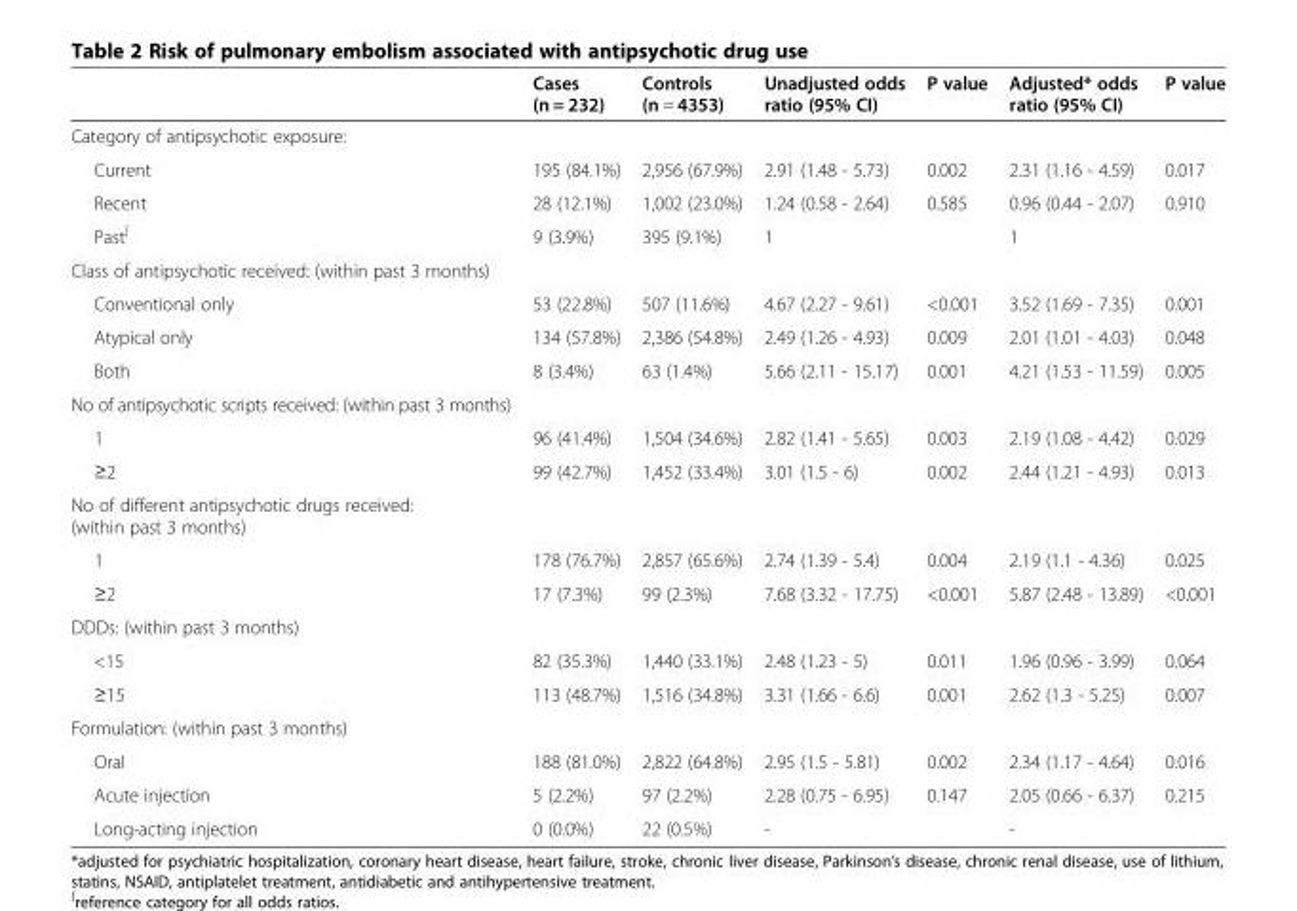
<table><thead><tr><td></td><td>Cases (n = 232)</td><td>Controls (n = 4353)</td><td>Unadjusted odds ratio (95% CI)</td><td>P value</td><td>Adjusted* odds ratio (95% CI)</td><td>P value</td></tr></thead><tbody><tr><td colspan="7">Category of antipsychotic exposure:</td></tr><tr><td>Current</td><td>195 (84.1%)</td><td>2,956 (67.9%)</td><td>2.91 (1.48 - 5.73)</td><td>0.002</td><td>2.31 (1.16 - 4.59)</td><td>0.017</td></tr><tr><td>Recent</td><td>28 (12.1%)</td><td>1,002 (23.0%)</td><td>1.24 (0.58 - 2.64)</td><td>0.585</td><td>0.96 (0.44 - 2.07)</td><td>0.910</td></tr><tr><td>Past<sup>∫</sup></td><td>9 (3.9%)</td><td>395 (9.1%)</td><td>1</td><td></td><td>1</td><td></td></tr><tr><td colspan="7">Class of antipsychotic received: (within past 3 months)</td></tr><tr><td>Conventional only</td><td>53 (22.8%)</td><td>507 (11.6%)</td><td>4.67 (2.27 - 9.61)</td><td>&lt;0.001</td><td>3.52 (1.69 - 7.35)</td><td>0.001</td></tr><tr><td>Atypical only</td><td>134 (57.8%)</td><td>2,386 (54.8%)</td><td>2.49 (1.26 - 4.93)</td><td>0.009</td><td>2.01 (1.01 - 4.03)</td><td>0.048</td></tr><tr><td>Both</td><td>8 (3.4%)</td><td>63 (1.4%)</td><td>5.66 (2.11 - 15.17)</td><td>0.001</td><td>4.21 (1.53 - 11.59)</td><td>0.005</td></tr><tr><td colspan="7">No of antipsychotic scripts received: (within past 3 months)</td></tr><tr><td>1</td><td>96 (41.4%)</td><td>1,504 (34.6%)</td><td>2.82 (1.41 - 5.65)</td><td>0.003</td><td>2.19 (1.08 - 4.42)</td><td>0.029</td></tr><tr><td>≥2</td><td>99 (42.7%)</td><td>1,452 (33.4%)</td><td>3.01 (1.5 - 6)</td><td>0.002</td><td>2.44 (1.21 - 4.93)</td><td>0.013</td></tr><tr><td colspan="7">No of different antipsychotic drugs received: (within past 3 months)</td></tr><tr><td>1</td><td>178 (76.7%)</td><td>2,857 (65.6%)</td><td>2.74 (1.39 - 5.4)</td><td>0.004</td><td>2.19 (1.1 - 4.36)</td><td>0.025</td></tr><tr><td>≥2</td><td>17 (7.3%)</td><td>99 (2.3%)</td><td>7.68 (3.32 - 17.75)</td><td>&lt;0.001</td><td>5.87 (2.48 - 13.89)</td><td>&lt;0.001</td></tr><tr><td colspan="7">DDDs: (within past 3 months)</td></tr><tr><td>&lt;15</td><td>82 (35.3%)</td><td>1,440 (33.1%)</td><td>2.48 (1.23 - 5)</td><td>0.011</td><td>1.96 (0.96 - 3.99)</td><td>0.064</td></tr><tr><td>≥15</td><td>113 (48.7%)</td><td>1,516 (34.8%)</td><td>3.31 (1.66 - 6.6)</td><td>0.001</td><td>2.62 (1.3 - 5.25)</td><td>0.007</td></tr><tr><td colspan="7">Formulation: (within past 3 months)</td></tr><tr><td>Oral</td><td>188 (81.0%)</td><td>2,822 (64.8%)</td><td>2.95 (1.5 - 5.81)</td><td>0.002</td><td>2.34 (1.17 - 4.64)</td><td>0.016</td></tr><tr><td>Acute injection</td><td>5 (2.2%)</td><td>97 (2.2%)</td><td>2.28 (0.75 - 6.95)</td><td>0.147</td><td>2.05 (0.66 - 6.37)</td><td>0.215</td></tr><tr><td>Long-acting injection</td><td>0 (0.0%)</td><td>22 (0.5%)</td><td>-</td><td></td><td>-</td><td></td></tr></tbody></table>